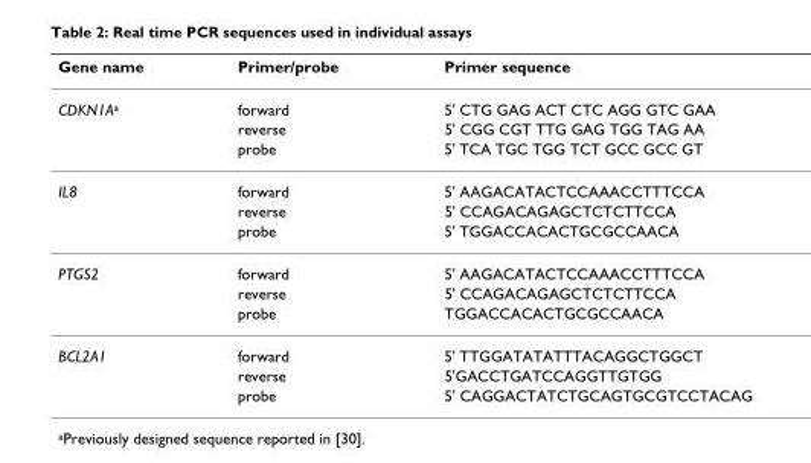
<table><thead><tr><td>Gene name</td><td>Primer/probe</td><td>Primer sequence</td></tr></thead><tbody><tr><td rowspan="3">CDKN1A<sup>a</sup></td><td>forward</td><td>5&#x27; CTG GAG ACT CTC AGG GTC GAA</td></tr><tr><td>reverse</td><td>5&#x27; CGG CGT TTG GAG TGG TAG AA</td></tr><tr><td>probe</td><td>5&#x27; TCA TGC TGG TCT GCC GCC GT</td></tr><tr><td rowspan="3">IL8</td><td>forward</td><td>5&#x27; AAGACATACTCCAAACCTTTCCA</td></tr><tr><td>reverse</td><td>5&#x27; CCAGACAGAGCTCTCTTCCA</td></tr><tr><td>probe</td><td>5&#x27; TGGACCACACTGCGCCAACA</td></tr><tr><td rowspan="3">PTGS2</td><td>forward</td><td>5&#x27; AAGACATACTCCAAACCTTTCCA</td></tr><tr><td>reverse</td><td>5&#x27; CCAGACAGAGCTCTCTTCCA</td></tr><tr><td>probe</td><td>TGGACCACACTGCGCCAACA</td></tr><tr><td rowspan="3">BCL2A1</td><td>forward</td><td>5&#x27; TTGGATATATTTACAGGCTGGCT</td></tr><tr><td>reverse</td><td>5&#x27;GACCTGATCCAGGTTGTGG</td></tr><tr><td>probe</td><td>5&#x27; CAGGACTATCTGCAGTGCGTCCTACAG</td></tr></tbody></table>